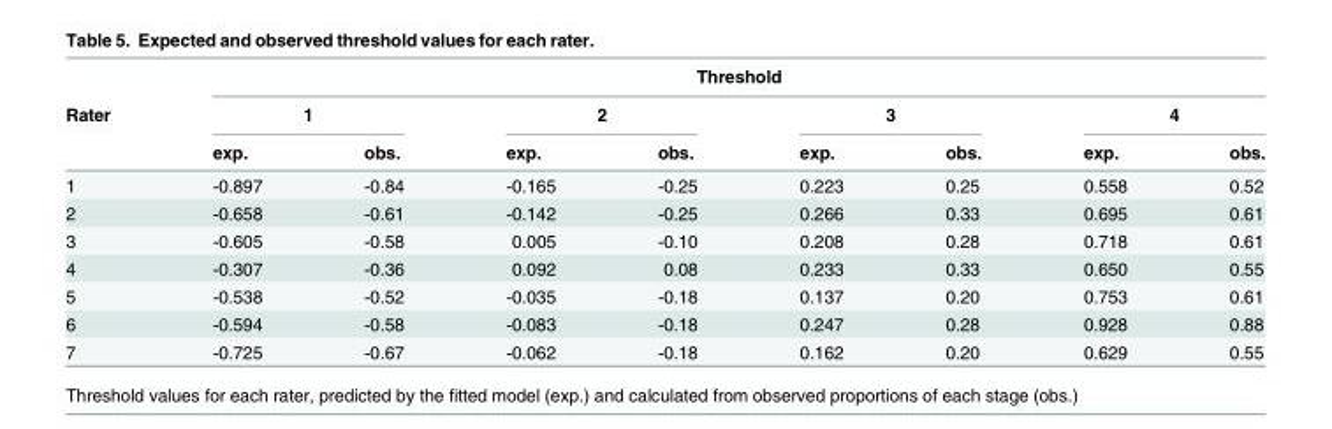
<table><thead><tr><td rowspan="3">Rater</td><td colspan="8">Threshold</td></tr><tr><td colspan="2">1</td><td colspan="2">2</td><td colspan="2">3</td><td colspan="2">4</td></tr><tr><td>exp.</td><td>obs.</td><td>exp.</td><td>obs.</td><td>exp.</td><td>obs.</td><td>exp.</td><td>obs.</td></tr></thead><tbody><tr><td>1</td><td>-0.897</td><td>-0.84</td><td>-0.165</td><td>-0.25</td><td>0.223</td><td>0.25</td><td>0.558</td><td>0.52</td></tr><tr><td>2</td><td>-0.658</td><td>-0.61</td><td>-0.142</td><td>-0.25</td><td>0.266</td><td>0.33</td><td>0.695</td><td>0.61</td></tr><tr><td>3</td><td>-0.605</td><td>-0.58</td><td>0.005</td><td>-0.10</td><td>0.208</td><td>0.28</td><td>0.718</td><td>0.61</td></tr><tr><td>4</td><td>-0.307</td><td>-0.36</td><td>0.092</td><td>0.08</td><td>0.233</td><td>0.33</td><td>0.650</td><td>0.55</td></tr><tr><td>5</td><td>-0.538</td><td>-0.52</td><td>-0.035</td><td>-0.18</td><td>0.137</td><td>0.20</td><td>0.753</td><td>0.61</td></tr><tr><td>6</td><td>-0.594</td><td>-0.58</td><td>-0.083</td><td>-0.18</td><td>0.247</td><td>0.28</td><td>0.928</td><td>0.88</td></tr><tr><td>7</td><td>-0.725</td><td>-0.67</td><td>-0.062</td><td>-0.18</td><td>0.162</td><td>0.20</td><td>0.629</td><td>0.55</td></tr></tbody></table>